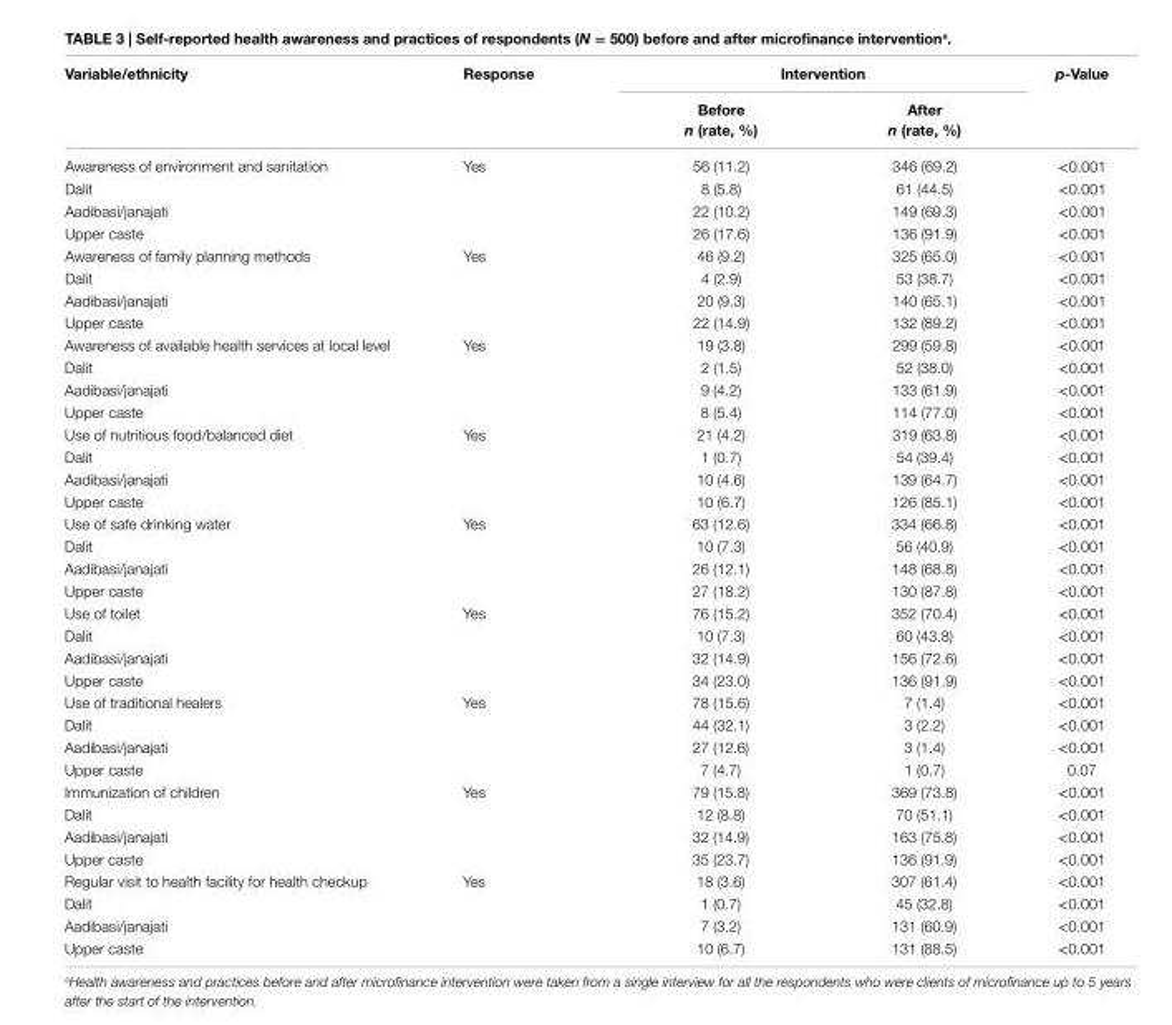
<table><thead><tr><td rowspan="2">Variable/ethnicity</td><td rowspan="2">response</td><td colspan="2">intervention</td><td rowspan="2">p-Value</td></tr><tr><td>Before n (rate, %)</td><td>after n (rate, %)</td></tr></thead><tbody><tr><td>Awareness of environment and sanitation</td><td>Yes</td><td>56 (11.2)</td><td>346 (69.2)</td><td>&lt;0.001</td></tr><tr><td>Dalit</td><td></td><td>8 (5.8)</td><td>61 (44.5)</td><td>&lt;0.001</td></tr><tr><td>Aadibasi/janajati</td><td></td><td>22 (10.2)</td><td>149 (69.3)</td><td>&lt;0.001</td></tr><tr><td>Upper caste</td><td></td><td>26 (17.6)</td><td>136 (91.9)</td><td>&lt;0.001</td></tr><tr><td>Awareness of family planning methods</td><td>Yes</td><td>46 (9.2)</td><td>325 (65.0)</td><td>&lt;0.001</td></tr><tr><td>Dalit</td><td></td><td>4 (2.9)</td><td>53 (38.7)</td><td>&lt;0.001</td></tr><tr><td>Aadibasi/janajati</td><td></td><td>20 (9.3)</td><td>140 (65.1)</td><td>&lt;0.001</td></tr><tr><td>Upper caste</td><td></td><td>22 (14.9)</td><td>132 (89.2)</td><td>&lt;0.001</td></tr><tr><td>Awareness of available health services at local level</td><td>Yes</td><td>19 (3.8)</td><td>299 (59.8)</td><td>&lt;0.001</td></tr><tr><td>Dalit</td><td></td><td>2 (1.5)</td><td>52 (38.0)</td><td>&lt;0.001</td></tr><tr><td>Aadibasi/janajati</td><td></td><td>9 (4.2)</td><td>133 (61.9)</td><td>&lt;0.001</td></tr><tr><td>Upper caste</td><td></td><td>8 (5.4)</td><td>114 (77.0)</td><td>&lt;0.001</td></tr><tr><td>Use of nutritious food/balanced diet</td><td>Yes</td><td>21 (4.2)</td><td>319 (63.8)</td><td>&lt;0.001</td></tr><tr><td>Dalit</td><td></td><td>1 (0.7)</td><td>54 (39.4)</td><td>&lt;0.001</td></tr><tr><td>Aadibasi/janajati</td><td></td><td>10 (4.6)</td><td>139 (64.7)</td><td>&lt;0.001</td></tr><tr><td>Upper caste</td><td></td><td>10 (6.7)</td><td>126 (85.1)</td><td>&lt;0.001</td></tr><tr><td>Use of safe drinking water</td><td>Yes</td><td>63 (12.6)</td><td>334 (66.8)</td><td>&lt;0.001</td></tr><tr><td>Dalit</td><td></td><td>10 (7.3)</td><td>56 (40.9)</td><td>&lt;0.001</td></tr><tr><td>Aadibasi/janajati</td><td></td><td>26 (12.1)</td><td>148 (68.8)</td><td>&lt;0.001</td></tr><tr><td>Upper caste</td><td></td><td>27 (18.2)</td><td>130 (87.8)</td><td>&lt;0.001</td></tr><tr><td>Use of toilet</td><td>Yes</td><td>76 (15.2)</td><td>352 (70.4)</td><td>&lt;0.001</td></tr><tr><td>Dalit</td><td></td><td>10 (7.3)</td><td>60 (43.8)</td><td>&lt;0.001</td></tr><tr><td>Aadibasi/janajati</td><td></td><td>32 (14.9)</td><td>156 (72.6)</td><td>&lt;0.001</td></tr><tr><td>Upper caste</td><td></td><td>34 (23.0)</td><td>136 (91.9)</td><td>&lt;0.001</td></tr><tr><td>Use of traditional healers</td><td>Yes</td><td>78 (15.6)</td><td>7 (1.4)</td><td>&lt;0.001</td></tr><tr><td>Dalit</td><td></td><td>44 (32.1)</td><td>3 (2.2)</td><td>&lt;0.001</td></tr><tr><td>Aadibasi/janajati</td><td></td><td>27 (12.6)</td><td>3 (1.4)</td><td>&lt;0.001</td></tr><tr><td>Upper caste</td><td></td><td>7 (4.7)</td><td>1 (0.7)</td><td>0.07</td></tr><tr><td>Immunization of children</td><td>Yes</td><td>79 (15.8)</td><td>369 (73.8)</td><td>&lt;0.001</td></tr><tr><td>Dalit</td><td></td><td>12 (8.8)</td><td>70 (51.1)</td><td>&lt;0.001</td></tr><tr><td>Aadibasi/janajati</td><td></td><td>32 (14.9)</td><td>163 (75.8)</td><td>&lt;0.001</td></tr><tr><td>Upper caste</td><td></td><td>35 (23.7)</td><td>136 (91.9)</td><td>&lt;0.001</td></tr><tr><td>Regular visit to health facility for health checkup</td><td>Yes</td><td>18 (3.6)</td><td>307 (61.4)</td><td>&lt;0.001</td></tr><tr><td>Dalit</td><td></td><td>1 (0.7)</td><td>45 (32.8)</td><td>&lt;0.001</td></tr><tr><td>Aadibasi/janajati</td><td></td><td>7 (3.2)</td><td>131 (60.9)</td><td>&lt;0.001</td></tr><tr><td>Upper caste</td><td></td><td>10 (6.7)</td><td>131 (88.5)</td><td>&lt;0.001</td></tr></tbody></table>